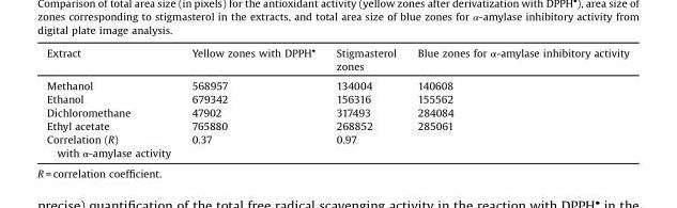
<table><thead><tr><td>Extract</td><td>Yellow zones with DPPH•</td><td>Stigmasterol zones</td><td>Blue zones for α-amylase inhibitory activity</td></tr></thead><tbody><tr><td>Methanol</td><td>568957</td><td>134004</td><td>140608</td></tr><tr><td>Ethanol</td><td>679342</td><td>156316</td><td>155562</td></tr><tr><td>Dichloromethane</td><td>47902</td><td>317493</td><td>284084</td></tr><tr><td>Ethyl acetate</td><td>765880</td><td>268852</td><td>285061</td></tr><tr><td>Correlation (R) with α-amylase activity</td><td>0.37</td><td>0.97</td><td></td></tr></tbody></table>